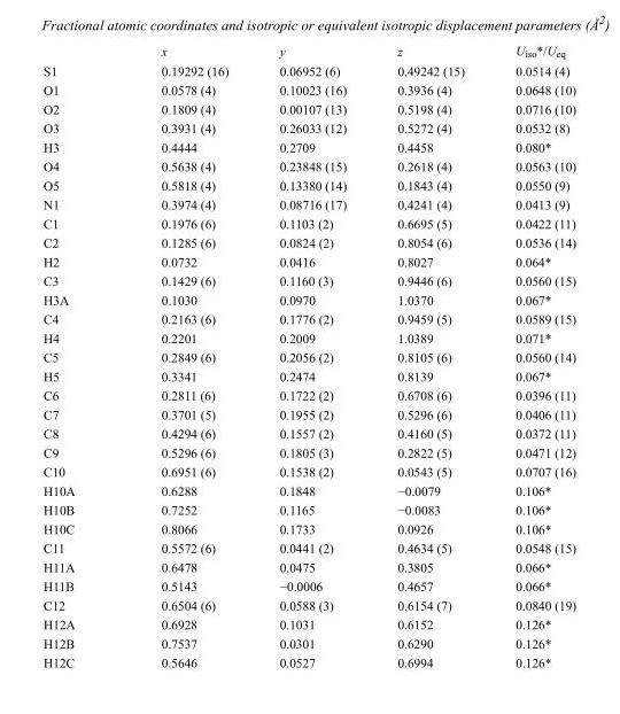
<table><thead><tr><td></td><td>x</td><td>y</td><td>z</td><td>U<sub>iso</sub>*/U<sub>eq</sub></td></tr></thead><tbody><tr><td>S1</td><td>0.19292 (16)</td><td>0.06952 (6)</td><td>0.49242 (15)</td><td>0.0514 (4)</td></tr><tr><td>O1</td><td>0.0578 (4)</td><td>0.10023 (16)</td><td>0.3936 (4)</td><td>0.0648 (10)</td></tr><tr><td>O2</td><td>0.1809 (4)</td><td>0.00107 (13)</td><td>0.5198 (4)</td><td>0.0716 (10)</td></tr><tr><td>O3</td><td>0.3931 (4)</td><td>0.26033 (12)</td><td>0.5272 (4)</td><td>0.0532 (8)</td></tr><tr><td>H3</td><td>0.4444</td><td>0.2709</td><td>0.4458</td><td>0.080*</td></tr><tr><td>O4</td><td>0.5638 (4)</td><td>0.23848 (15)</td><td>0.2618 (4)</td><td>0.0563 (10)</td></tr><tr><td>O5</td><td>0.5818 (4)</td><td>0.13380 (14)</td><td>0.1843 (4)</td><td>0.0550 (9)</td></tr><tr><td>N1</td><td>0.3974 (4)</td><td>0.08716 (17)</td><td>0.4241 (4)</td><td>0.0413 (9)</td></tr><tr><td>C1</td><td>0.1976 (6)</td><td>0.1103 (2)</td><td>0.6695 (5)</td><td>0.0422 (11)</td></tr><tr><td>C2</td><td>0.1285 (6)</td><td>0.0824 (2)</td><td>0.8054 (6)</td><td>0.0536 (14)</td></tr><tr><td>H2</td><td>0.0732</td><td>0.0416</td><td>0.8027</td><td>0.064*</td></tr><tr><td>C3</td><td>0.1429 (6)</td><td>0.1160 (3)</td><td>0.9446 (6)</td><td>0.0560 (15)</td></tr><tr><td>H3A</td><td>0.1030</td><td>0.0970</td><td>1.0370</td><td>0.067*</td></tr><tr><td>C4</td><td>0.2163 (6)</td><td>0.1776 (2)</td><td>0.9459 (5)</td><td>0.0589 (15)</td></tr><tr><td>H4</td><td>0.2201</td><td>0.2009</td><td>1.0389</td><td>0.071*</td></tr><tr><td>C5</td><td>0.2849 (6)</td><td>0.2056 (2)</td><td>0.8105 (6)</td><td>0.0560 (14)</td></tr><tr><td>H5</td><td>0.3341</td><td>0.2474</td><td>0.8139</td><td>0.067*</td></tr><tr><td>C6</td><td>0.2811 (6)</td><td>0.1722 (2)</td><td>0.6708 (6)</td><td>0.0396 (11)</td></tr><tr><td>C7</td><td>0.3701 (5)</td><td>0.1955 (2)</td><td>0.5296 (6)</td><td>0.0406 (11)</td></tr><tr><td>C8</td><td>0.4294 (6)</td><td>0.1557 (2)</td><td>0.4160 (5)</td><td>0.0372 (11)</td></tr><tr><td>C9</td><td>0.5296 (6)</td><td>0.1805 (3)</td><td>0.2822 (5)</td><td>0.0471 (12)</td></tr><tr><td>C10</td><td>0.6951 (6)</td><td>0.1538 (2)</td><td>0.0543 (5)</td><td>0.0707 (16)</td></tr><tr><td>H10A</td><td>0.6288</td><td>0.1848</td><td>−0.0079</td><td>0.106*</td></tr><tr><td>H10B</td><td>0.7252</td><td>0.1165</td><td>−0.0083</td><td>0.106*</td></tr><tr><td>H10C</td><td>0.8066</td><td>0.1733</td><td>0.0926</td><td>0.106*</td></tr><tr><td>C11</td><td>0.5572 (6)</td><td>0.0441 (2)</td><td>0.4634 (5)</td><td>0.0548 (15)</td></tr><tr><td>H11A</td><td>0.6478</td><td>0.0475</td><td>0.3805</td><td>0.066*</td></tr><tr><td>H11B</td><td>0.5143</td><td>−0.0006</td><td>0.4657</td><td>0.066*</td></tr><tr><td>C12</td><td>0.6504 (6)</td><td>0.0588 (3)</td><td>0.6154 (7)</td><td>0.0840 (19)</td></tr><tr><td>H12A</td><td>0.6928</td><td>0.1031</td><td>0.6152</td><td>0.126*</td></tr><tr><td>H12B</td><td>0.7537</td><td>0.0301</td><td>0.6290</td><td>0.126*</td></tr><tr><td>H12C</td><td>0.5646</td><td>0.0527</td><td>0.6994</td><td>0.126*</td></tr></tbody></table>